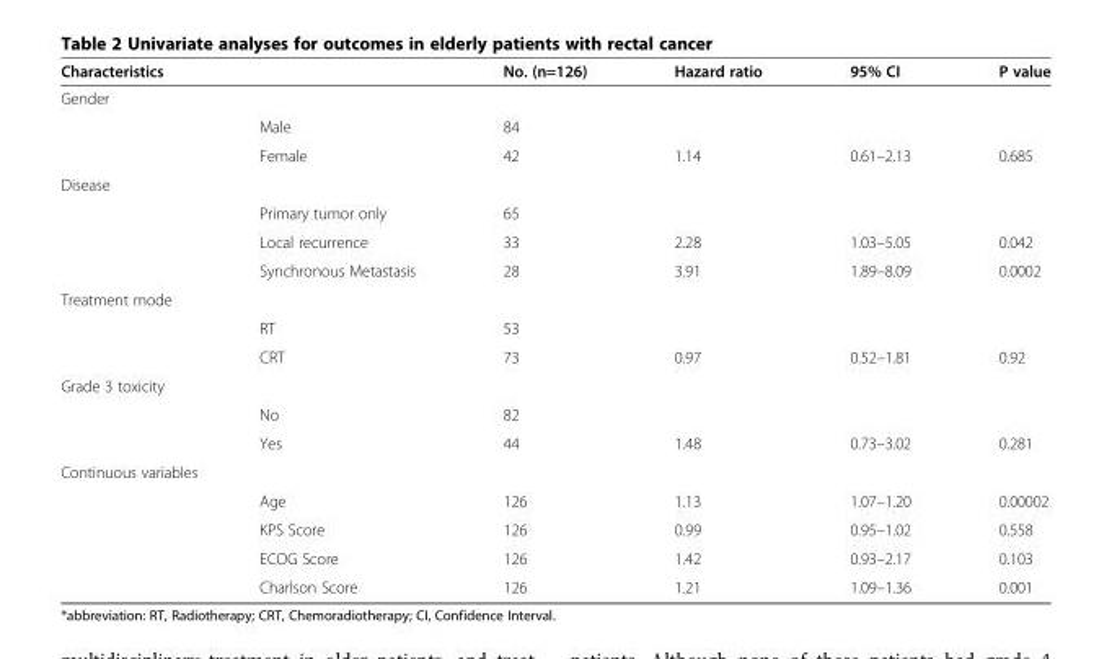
<table><thead><tr><td colspan="2">Characteristics</td><td rowspan="2">No. (n=126)</td><td rowspan="2">Hazard ratio</td><td rowspan="2">95% CI</td><td rowspan="2">P value</td></tr><tr><td>Gender</td><td></td></tr></thead><tbody><tr><td></td><td>Male</td><td>84</td><td></td><td></td><td></td></tr><tr><td></td><td>Female</td><td>42</td><td>1.14</td><td>0.61–2.13</td><td>0.685</td></tr><tr><td colspan="6">Disease</td></tr><tr><td></td><td>Primary tumor only</td><td>65</td><td></td><td></td><td></td></tr><tr><td></td><td>Local recurrence</td><td>33</td><td>2.28</td><td>1.03–5.05</td><td>0.042</td></tr><tr><td></td><td>Synchronous Metastasis</td><td>28</td><td>3.91</td><td>1.89–8.09</td><td>0.0002</td></tr><tr><td colspan="6">Treatment mode</td></tr><tr><td></td><td>RT</td><td>53</td><td></td><td></td><td></td></tr><tr><td></td><td>CRT</td><td>73</td><td>0.97</td><td>0.52–1.81</td><td>0.92</td></tr><tr><td colspan="6">Grade 3 toxicity</td></tr><tr><td></td><td>No</td><td>82</td><td></td><td></td><td></td></tr><tr><td></td><td>Yes</td><td>44</td><td>1.48</td><td>0.73–3.02</td><td>0.281</td></tr><tr><td colspan="6">Continuous variables</td></tr><tr><td></td><td>Age</td><td>126</td><td>1.13</td><td>1.07–1.20</td><td>0.00002</td></tr><tr><td></td><td>KPS Score</td><td>126</td><td>0.99</td><td>0.95–1.02</td><td>0.558</td></tr><tr><td></td><td>ECOG Score</td><td>126</td><td>1.42</td><td>0.93–2.17</td><td>0.103</td></tr><tr><td></td><td>Charlson Score</td><td>126</td><td>1.21</td><td>1.09–1.36</td><td>0.001</td></tr></tbody></table>